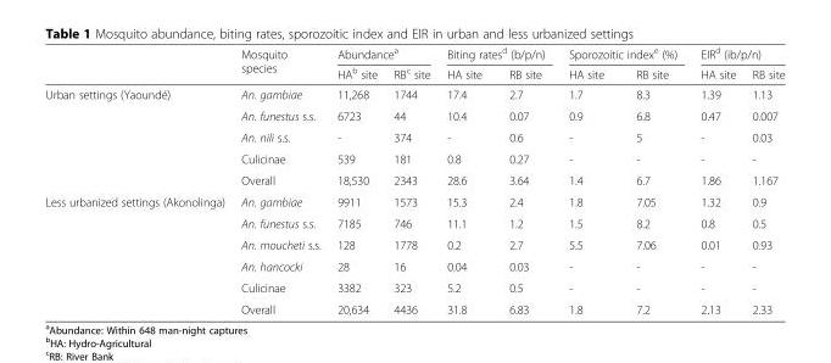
<table><thead><tr><td rowspan="2"></td><td rowspan="2">Mosquito species</td><td colspan="2">Abundance<sup>a</sup></td><td colspan="2">Biting rates<sup>d</sup> (b/p/n)</td><td colspan="2">Sporozoitic index<sup>e</sup> (%)</td><td colspan="2">EIR<sup>d</sup> (ib/p/n)</td></tr><tr><td>HA<sup>b</sup> site</td><td>RB<sup>c</sup> site</td><td>HA site</td><td>RB site</td><td>HA site</td><td>RB site</td><td>HA site</td><td>RB site</td></tr></thead><tbody><tr><td rowspan="5">Urban settings (Yaoundé)</td><td>An. gambiae</td><td>11,268</td><td>1744</td><td>17.4</td><td>2.7</td><td>1.7</td><td>8.3</td><td>1.39</td><td>1.13</td></tr><tr><td>An. funestus s.s.</td><td>6723</td><td>44</td><td>10.4</td><td>0.07</td><td>0.9</td><td>6.8</td><td>0.47</td><td>0.007</td></tr><tr><td>An. nili s.s.</td><td>-</td><td>374</td><td>-</td><td>0.6</td><td>-</td><td>5</td><td>-</td><td>0.03</td></tr><tr><td>Culicinae</td><td>539</td><td>181</td><td>0.8</td><td>0.27</td><td>-</td><td>-</td><td>-</td><td>-</td></tr><tr><td>Overall</td><td>18,530</td><td>2343</td><td>28.6</td><td>3.64</td><td>1.4</td><td>6.7</td><td>1.86</td><td>1.167</td></tr><tr><td rowspan="6">Less urbanized settings (Akonolinga)</td><td>An. gambiae</td><td>9911</td><td>1573</td><td>15.3</td><td>2.4</td><td>1.8</td><td>7.05</td><td>1.32</td><td>0.9</td></tr><tr><td>An. funestus s.s.</td><td>7185</td><td>746</td><td>11.1</td><td>1.2</td><td>1.5</td><td>8.2</td><td>0.8</td><td>0.5</td></tr><tr><td>An. moucheti s.s.</td><td>128</td><td>1778</td><td>0.2</td><td>2.7</td><td>5.5</td><td>7.06</td><td>0.01</td><td>0.93</td></tr><tr><td>An. hancocki</td><td>28</td><td>16</td><td>0.04</td><td>0.03</td><td>-</td><td>-</td><td>-</td><td>-</td></tr><tr><td>Culicinae</td><td>3382</td><td>323</td><td>5.2</td><td>0.5</td><td>-</td><td>-</td><td>-</td><td>-</td></tr><tr><td>Overall</td><td>20,634</td><td>4436</td><td>31.8</td><td>6.83</td><td>1.8</td><td>7.2</td><td>2.13</td><td>2.33</td></tr></tbody></table>